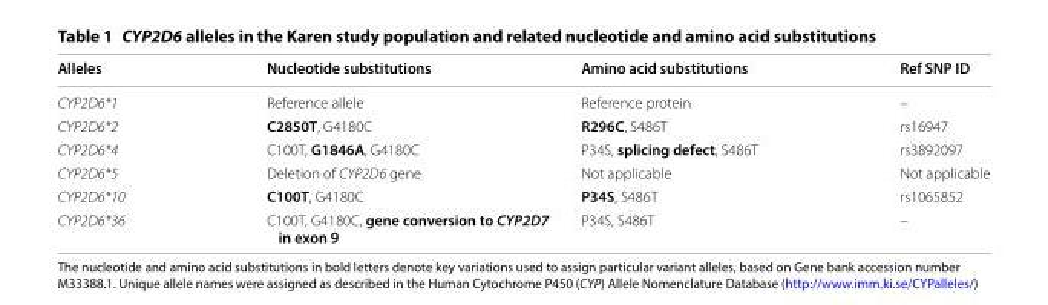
<table><thead><tr><td>Alleles</td><td>Nucleotide substitutions</td><td>Amino acid substitutions</td><td>Ref SNP ID</td></tr></thead><tbody><tr><td>CYP2D6*1</td><td>Reference allele</td><td>Reference protein</td><td>–</td></tr><tr><td>CYP2D6*2</td><td>C2850T, G4180C</td><td>R296C, S486T</td><td>rs16947</td></tr><tr><td>CYP2D6*4</td><td>C100T, G1846A, G4180C</td><td>P34S, splicing defect, S486T</td><td>rs3892097</td></tr><tr><td>CYP2D6*5</td><td>Deletion of CYP2D6 gene</td><td>Not applicable</td><td>Not applicable</td></tr><tr><td>CYP2D6*10</td><td>C100T, G4180C</td><td>P34S, S486T</td><td>rs1065852</td></tr><tr><td>CYP2D6*36</td><td>C100T, G4180C, gene conversion to CYP2D7 in exon 9</td><td>P34S, S486T</td><td>–</td></tr></tbody></table>